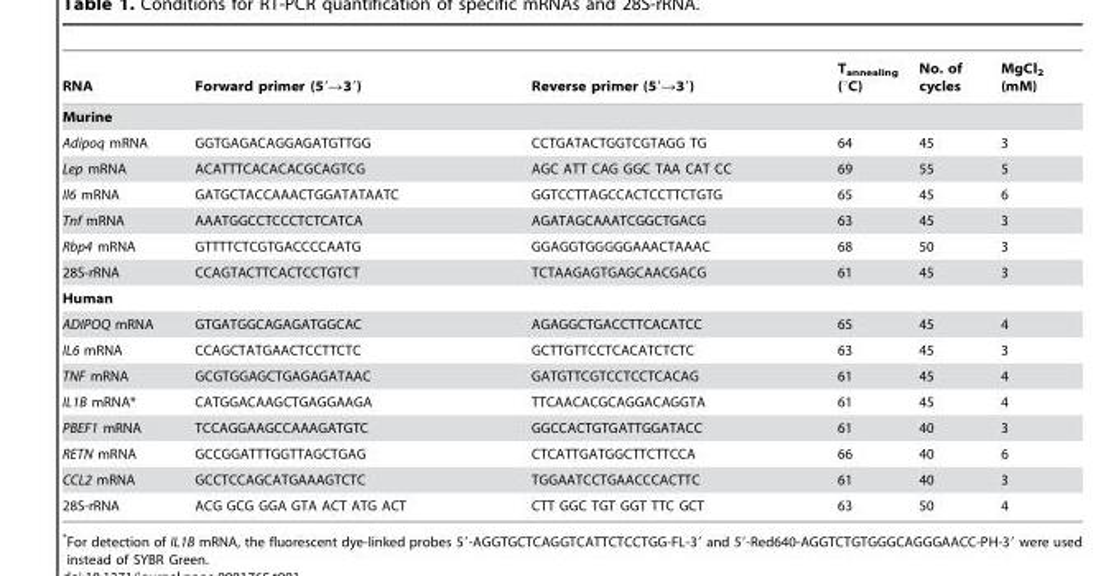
<table><thead><tr><td>RNA</td><td>Forward primer (5′→3′)</td><td>Reverse primer (5′→3′)</td><td>T<sub>annealing</sub> (°C)</td><td>No. of cycles</td><td>MgCl<sub>2</sub> (mM)</td></tr></thead><tbody><tr><td colspan="6">Murine</td></tr><tr><td>Adipoq mRNA</td><td>GGTGAGACAGGAGATGTTGG</td><td>CCTGATACTGGTCGTAGG TG</td><td>64</td><td>45</td><td>3</td></tr><tr><td>Lep mRNA</td><td>ACATTTCACACACGCAGTCG</td><td>AGC ATT CAG GGC TAA CAT CC</td><td>69</td><td>55</td><td>5</td></tr><tr><td>Il6 mRNA</td><td>GATGCTACCAAACTGGATATAATC</td><td>GGTCCTTAGCCACTCCTTCTGTG</td><td>65</td><td>45</td><td>6</td></tr><tr><td>Tnf mRNA</td><td>AAATGGCCTCCCTCTCATCA</td><td>AGATAGCAAATCGGCTGACG</td><td>63</td><td>45</td><td>3</td></tr><tr><td>Rbp4 mRNA</td><td>GTTTTCTCGTGACCCCAATG</td><td>GGAGGTGGGGGAAACTAAAC</td><td>68</td><td>50</td><td>3</td></tr><tr><td>28S-rRNA</td><td>CCAGTACTTCACTCCTGTCT</td><td>TCTAAGAGTGAGCAACGACG</td><td>61</td><td>45</td><td>3</td></tr><tr><td colspan="6">Human</td></tr><tr><td>ADIPOQ mRNA</td><td>GTGATGGCAGAGATGGCAC</td><td>AGAGGCTGACCTTCACATCC</td><td>65</td><td>45</td><td>4</td></tr><tr><td>IL6 mRNA</td><td>CCAGCTATGAACTCCTTCTC</td><td>GCTTGTTCCTCACATCTCTC</td><td>63</td><td>45</td><td>3</td></tr><tr><td>TNF mRNA</td><td>GCGTGGAGCTGAGAGATAAC</td><td>GATGTTCGTCCTCCTCACAG</td><td>61</td><td>45</td><td>4</td></tr><tr><td>IL1B mRNA*</td><td>CATGGACAAGCTGAGGAAGA</td><td>TTCAACACGCAGGACAGGTA</td><td>61</td><td>45</td><td>4</td></tr><tr><td>PBEF1 mRNA</td><td>TCCAGGAAGCCAAAGATGTC</td><td>GGCCACTGTGATTGGATACC</td><td>61</td><td>40</td><td>3</td></tr><tr><td>RETN mRNA</td><td>GCCGGATTTGGTTAGCTGAG</td><td>CTCATTGATGGCTTCTTCCA</td><td>66</td><td>40</td><td>6</td></tr><tr><td>CCL2 mRNA</td><td>GCCTCCAGCATGAAAGTCTC</td><td>TGGAATCCTGAACCCACTTC</td><td>61</td><td>40</td><td>3</td></tr><tr><td>28S-rRNA</td><td>ACG GCG GGA GTA ACT ATG ACT</td><td>CTT GGC TGT GGT TTC GCT</td><td>63</td><td>50</td><td>4</td></tr></tbody></table>